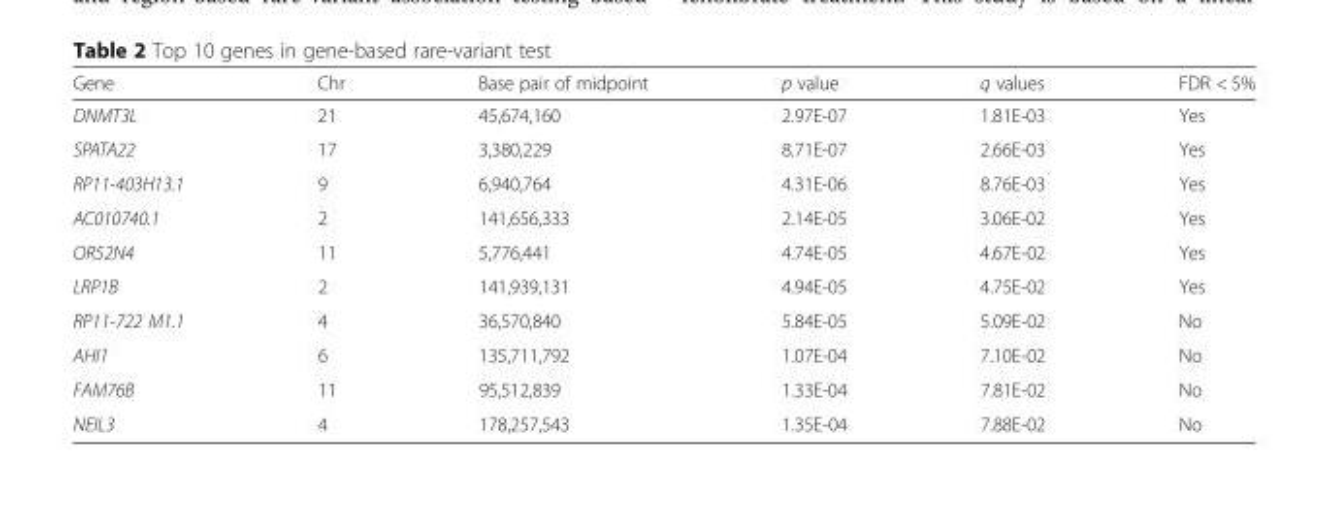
<table><thead><tr><td>Gene</td><td>Chr</td><td>Base pair of midpoint</td><td>p value</td><td>q values</td><td>FDR &lt; 5%</td></tr></thead><tbody><tr><td>DNMT3L</td><td>21</td><td>45,674,160</td><td>2.97E-07</td><td>1.81E-03</td><td>Yes</td></tr><tr><td>SPATA22</td><td>17</td><td>3,380,229</td><td>8.71E-07</td><td>2.66E-03</td><td>Yes</td></tr><tr><td>RP11-403H13.1</td><td>9</td><td>6,940,764</td><td>4.31E-06</td><td>8.76E-03</td><td>Yes</td></tr><tr><td>AC010740.1</td><td>2</td><td>141,656,333</td><td>2.14E-05</td><td>3.06E-02</td><td>Yes</td></tr><tr><td>OR52N4</td><td>11</td><td>5,776,441</td><td>4.74E-05</td><td>4.67E-02</td><td>Yes</td></tr><tr><td>LRP1B</td><td>2</td><td>141,939,131</td><td>4.94E-05</td><td>4.75E-02</td><td>Yes</td></tr><tr><td>RP11-722 M1.1</td><td>4</td><td>36,570,840</td><td>5.84E-05</td><td>5.09E-02</td><td>No</td></tr><tr><td>AHI1</td><td>6</td><td>135,711,792</td><td>1.07E-04</td><td>7.10E-02</td><td>No</td></tr><tr><td>FAM76B</td><td>11</td><td>95,512,839</td><td>1.33E-04</td><td>7.81E-02</td><td>No</td></tr><tr><td>NEIL3</td><td>4</td><td>178,257,543</td><td>1.35E-04</td><td>7.88E-02</td><td>No</td></tr></tbody></table>